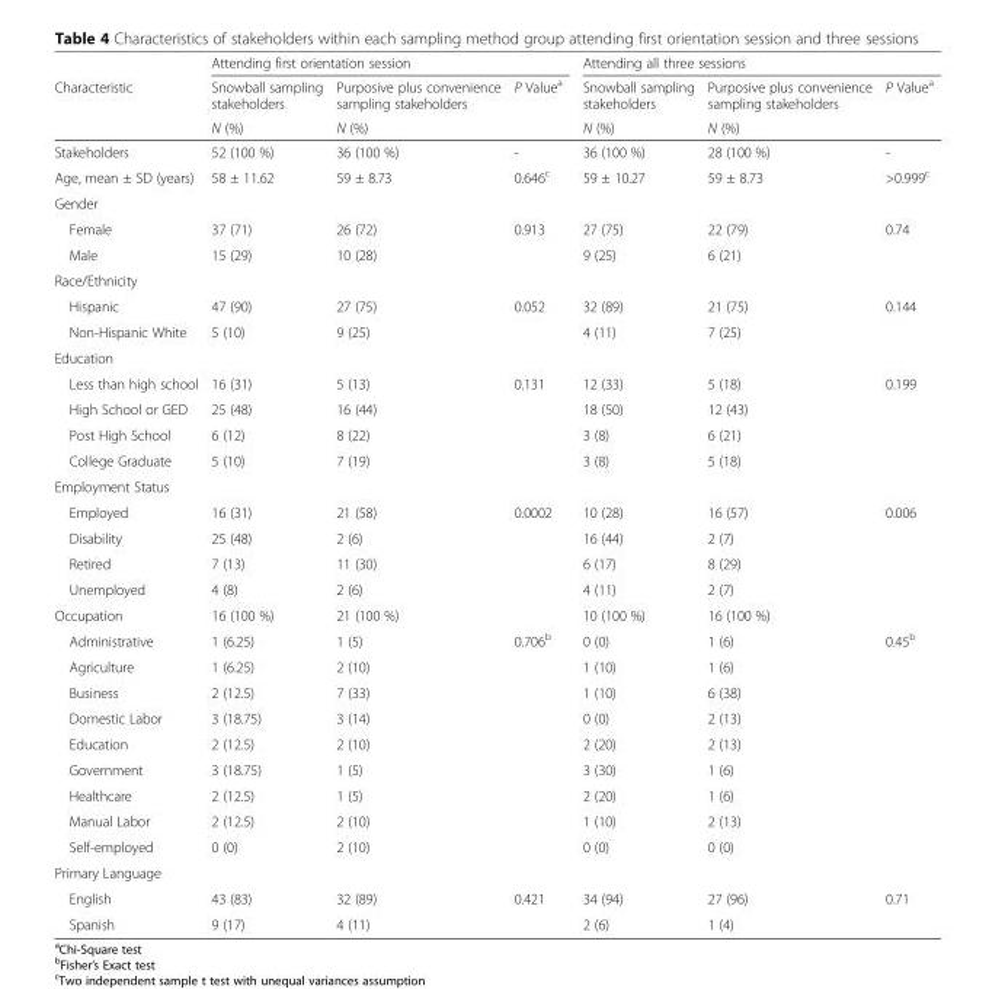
<table><thead><tr><td rowspan="3">Characteristic</td><td colspan="3">Attending first orientation session</td><td colspan="3">Attending all three sessions</td></tr><tr><td rowspan="2">Snowball sampling stakeholders N (%)</td><td rowspan="2">Purposive plus convenience sampling stakeholders N (%)</td><td rowspan="2">P Value<sup>a</sup></td><td rowspan="2">Snowball sampling stakeholders N (%)</td><td rowspan="2">Purposive plus convenience sampling stakeholders N (%)</td><td rowspan="2">P Value<sup>a</sup></td></tr><tr></tr></thead><tbody><tr><td>Stakeholders</td><td>52 (100 %)</td><td>36 (100 %)</td><td>-</td><td>36 (100 %)</td><td>28 (100 %)</td><td>-</td></tr><tr><td>Age, mean ± SD (years)</td><td>58 ± 11.62</td><td>59 ± 8.73</td><td>0.646<sup>c</sup></td><td>59 ± 10.27</td><td>59 ± 8.73</td><td>&gt;0.999<sup>c</sup></td></tr><tr><td colspan="7">Gender</td></tr><tr><td>Female</td><td>37 (71)</td><td>26 (72)</td><td>0.913</td><td>27 (75)</td><td>22 (79)</td><td>0.74</td></tr><tr><td>Male</td><td>15 (29)</td><td>10 (28)</td><td></td><td>9 (25)</td><td>6 (21)</td><td></td></tr><tr><td colspan="7">Race/Ethnicity</td></tr><tr><td>Hispanic</td><td>47 (90)</td><td>27 (75)</td><td>0.052</td><td>32 (89)</td><td>21 (75)</td><td>0.144</td></tr><tr><td>Non-Hispanic White</td><td>5 (10)</td><td>9 (25)</td><td></td><td>4 (11)</td><td>7 (25)</td><td></td></tr><tr><td colspan="7">Education</td></tr><tr><td>Less than high school</td><td>16 (31)</td><td>5 (13)</td><td>0.131</td><td>12 (33)</td><td>5 (18)</td><td>0.199</td></tr><tr><td>High School or GED</td><td>25 (48)</td><td>16 (44)</td><td></td><td>18 (50)</td><td>12 (43)</td><td></td></tr><tr><td>Post High School</td><td>6 (12)</td><td>8 (22)</td><td></td><td>3 (8)</td><td>6 (21)</td><td></td></tr><tr><td>College Graduate</td><td>5 (10)</td><td>7 (19)</td><td></td><td>3 (8)</td><td>5 (18)</td><td></td></tr><tr><td colspan="7">Employment Status</td></tr><tr><td>Employed</td><td>16 (31)</td><td>21 (58)</td><td>0.0002</td><td>10 (28)</td><td>16 (57)</td><td>0.006</td></tr><tr><td>Disability</td><td>25 (48)</td><td>2 (6)</td><td></td><td>16 (44)</td><td>2 (7)</td><td></td></tr><tr><td>Retired</td><td>7 (13)</td><td>11 (30)</td><td></td><td>6 (17)</td><td>8 (29)</td><td></td></tr><tr><td>Unemployed</td><td>4 (8)</td><td>2 (6)</td><td></td><td>4 (11)</td><td>2 (7)</td><td></td></tr><tr><td>Occupation</td><td>16 (100 %)</td><td>21 (100 %)</td><td></td><td>10 (100 %)</td><td>16 (100 %)</td><td></td></tr><tr><td>Administrative</td><td>1 (6.25)</td><td>1 (5)</td><td>0.706<sup>b</sup></td><td>0 (0)</td><td>1 (6)</td><td>0.45<sup>b</sup></td></tr><tr><td>Agriculture</td><td>1 (6.25)</td><td>2 (10)</td><td></td><td>1 (10)</td><td>1 (6)</td><td></td></tr><tr><td>Business</td><td>2 (12.5)</td><td>7 (33)</td><td></td><td>1 (10)</td><td>6 (38)</td><td></td></tr><tr><td>Domestic Labor</td><td>3 (18.75)</td><td>3 (14)</td><td></td><td>0 (0)</td><td>2 (13)</td><td></td></tr><tr><td>Education</td><td>2 (12.5)</td><td>2 (10)</td><td></td><td>2 (20)</td><td>2 (13)</td><td></td></tr><tr><td>Government</td><td>3 (18.75)</td><td>1 (5)</td><td></td><td>3 (30)</td><td>1 (6)</td><td></td></tr><tr><td>Healthcare</td><td>2 (12.5)</td><td>1 (5)</td><td></td><td>2 (20)</td><td>1 (6)</td><td></td></tr><tr><td>Manual Labor</td><td>2 (12.5)</td><td>2 (10)</td><td></td><td>1 (10)</td><td>2 (13)</td><td></td></tr><tr><td>Self-employed</td><td>0 (0)</td><td>2 (10)</td><td></td><td>0 (0)</td><td>0 (0)</td><td></td></tr><tr><td colspan="7">Primary Language</td></tr><tr><td>English</td><td>43 (83)</td><td>32 (89)</td><td>0.421</td><td>34 (94)</td><td>27 (96)</td><td>0.71</td></tr><tr><td>Spanish</td><td>9 (17)</td><td>4 (11)</td><td></td><td>2 (6)</td><td>1 (4)</td><td></td></tr></tbody></table>